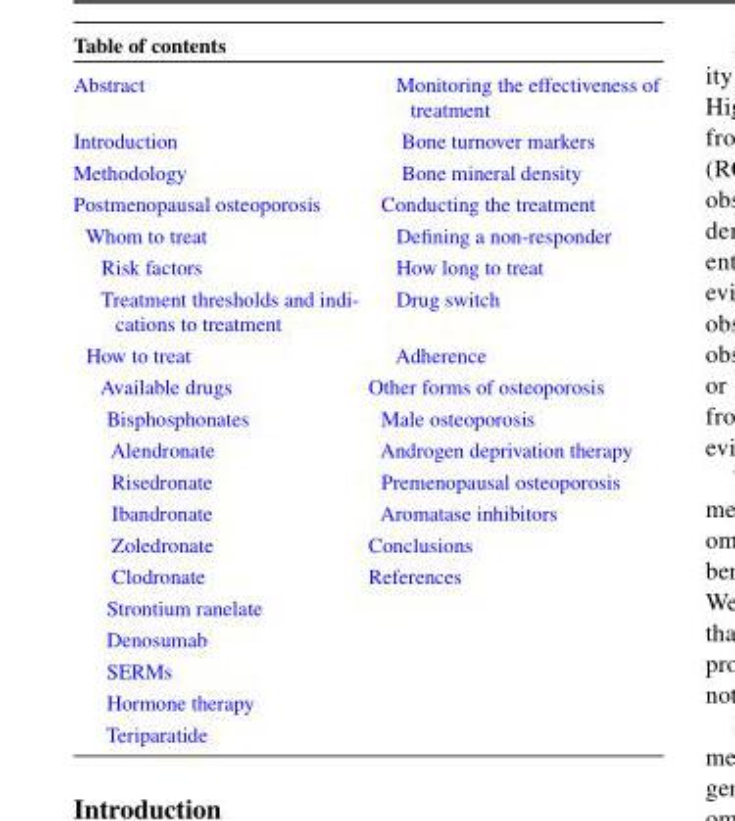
<table><tbody><tr><td>Abstract</td><td>Monitoring the effectiveness of treatment</td></tr><tr><td>Introduction</td><td>Bone turnover markers</td></tr><tr><td>Methodology</td><td>Bone mineral density</td></tr><tr><td>Postmenopausal osteoporosis</td><td>Conducting the treatment</td></tr><tr><td>Whom to treat</td><td>Defining a non-responder</td></tr><tr><td>Risk factors</td><td>How long to treat</td></tr><tr><td>Treatment thresholds and indi- cations to treatment</td><td>Drug switch</td></tr><tr><td>How to treat</td><td>Adherence</td></tr><tr><td>Available drugs</td><td>Other forms of osteoporosis</td></tr><tr><td>Bisphosphonates</td><td>Male osteoporosis</td></tr><tr><td>Alendronate</td><td>Androgen deprivation therapy</td></tr><tr><td>Risedronate</td><td>Premenopausal osteoporosis</td></tr><tr><td>Ibandronate</td><td>Aromatase inhibitors</td></tr><tr><td>Zoledronate</td><td>Conclusions</td></tr><tr><td>Clodronate</td><td>References</td></tr><tr><td colspan="2">Strontium ranelate</td></tr><tr><td colspan="2">Denosumab</td></tr><tr><td colspan="2">SERMs</td></tr><tr><td colspan="2">Hormone therapy</td></tr><tr><td>Teriparatide</td><td></td></tr></tbody></table>